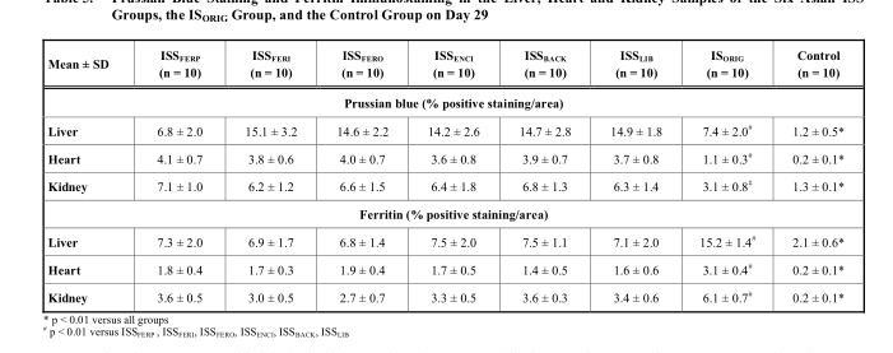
<table><thead><tr><td>Mean ± SD</td><td>ISS<sub>FERP</sub> (n = 10)</td><td>ISS<sub>FERI</sub> (n = 10)</td><td>ISS<sub>FERO</sub> (n = 10)</td><td>ISS<sub>ENCI</sub> (n = 10)</td><td>ISS<sub>BACK</sub> (n = 10)</td><td>ISS<sub>LIB</sub> (n = 10)</td><td>IS<sub>ORIG</sub> (n = 10)</td><td>Control (n = 10)</td></tr></thead><tbody><tr><td colspan="9">Prussian blue (% positive staining/area)</td></tr><tr><td>Liver</td><td>6.8 ± 2.0</td><td>15.1 ± 3.2</td><td>14.6 ± 2.2</td><td>14.2 ± 2.6</td><td>14.7 ± 2.8</td><td>14.9 ± 1.8</td><td>7.4 ± 2.0#</td><td>1.2 ± 0.5*</td></tr><tr><td>Heart</td><td>4.1 ± 0.7</td><td>3.8 ± 0.6</td><td>4.0 ± 0.7</td><td>3.6 ± 0.8</td><td>3.9 ± 0.7</td><td>3.7 ± 0.8</td><td>1.1 ± 0.3#</td><td>0.2 ± 0.1*</td></tr><tr><td>Kidney</td><td>7.1 ± 1.0</td><td>6.2 ± 1.2</td><td>6.6 ± 1.5</td><td>6.4 ± 1.8</td><td>6.8 ± 1.3</td><td>6.3 ± 1.4</td><td>3.1 ± 0.8#</td><td>1.3 ± 0.1*</td></tr><tr><td colspan="9">Ferritin (% positive staining/area)</td></tr><tr><td>Liver</td><td>7.3 ± 2.0</td><td>6.9 ± 1.7</td><td>6.8 ± 1.4</td><td>7.5 ± 2.0</td><td>7.5 ± 1.1</td><td>7.1 ± 2.0</td><td>15.2 ± 1.4#</td><td>2.1 ± 0.6*</td></tr><tr><td>Heart</td><td>1.8 ± 0.4</td><td>1.7 ± 0.3</td><td>1.9 ± 0.4</td><td>1.7 ± 0.5</td><td>1.4 ± 0.5</td><td>1.6 ± 0.6</td><td>3.1 ± 0.4#</td><td>0.2 ± 0.1*</td></tr><tr><td>Kidney</td><td>3.6 ± 0.5</td><td>3.0 ± 0.5</td><td>2.7 ± 0.7</td><td>3.3 ± 0.5</td><td>3.6 ± 0.3</td><td>3.4 ± 0.6</td><td>6.1 ± 0.7#</td><td>0.2 ± 0.1*</td></tr></tbody></table>